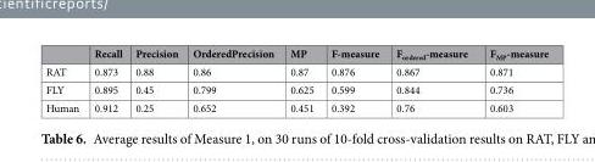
<table><thead><tr><td></td><td>Recall</td><td>Precision</td><td>OrderedPrecision</td><td>MP</td><td>F-measure</td><td>F<sub>ordered</sub>-measure</td><td>F<sub>MP</sub>-measure</td></tr></thead><tbody><tr><td>RAT</td><td>0.873</td><td>0.88</td><td>0.86</td><td>0.87</td><td>0.876</td><td>0.867</td><td>0.871</td></tr><tr><td>FLY</td><td>0.895</td><td>0.45</td><td>0.799</td><td>0.625</td><td>0.599</td><td>0.844</td><td>0.736</td></tr><tr><td>Human</td><td>0.912</td><td>0.25</td><td>0.652</td><td>0.451</td><td>0.392</td><td>0.76</td><td>0.603</td></tr></tbody></table>